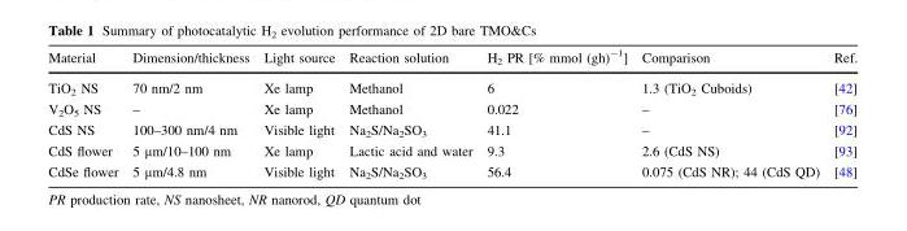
<table><thead><tr><td>Material</td><td>Dimension/thickness</td><td>Light source</td><td>Reaction solution</td><td>H<sub>2</sub> PR [% mmol (gh)<sup>-1</sup>]</td><td>Comparison</td><td>Ref.</td></tr></thead><tbody><tr><td>TiO<sub>2</sub> NS</td><td>70 nm/2 nm</td><td>Xe lamp</td><td>Methanol</td><td>6</td><td>1.3 (TiO<sub>2</sub> Cuboids)</td><td>[42]</td></tr><tr><td>V<sub>2</sub>O<sub>5</sub> NS</td><td>–</td><td>Xe lamp</td><td>Methanol</td><td>0.022</td><td>–</td><td>[76]</td></tr><tr><td>CdS NS</td><td>100–300 nm/4 nm</td><td>Visible light</td><td>Na<sub>2</sub>S/Na<sub>2</sub>SO<sub>3</sub></td><td>41.1</td><td>–</td><td>[92]</td></tr><tr><td>CdS flower</td><td>5 µm/10–100 nm</td><td>Xe lamp</td><td>Lactic acid and water</td><td>9.3</td><td>2.6 (CdS NS)</td><td>[93]</td></tr><tr><td>CdSe flower</td><td>5 µm/4.8 nm</td><td>Visible light</td><td>Na<sub>2</sub>S/Na<sub>2</sub>SO<sub>3</sub></td><td>56.4</td><td>0.075 (CdS NR); 44 (CdS QD)</td><td>[48]</td></tr></tbody></table>